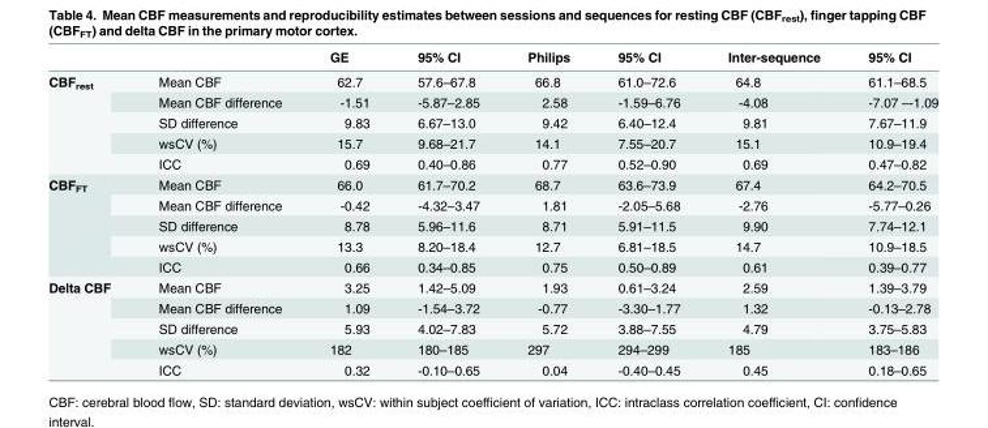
<table><thead><tr><td></td><td></td><td>GE</td><td>95% CI</td><td>Philips</td><td>95% CI</td><td>Inter-sequence</td><td>95% CI</td></tr></thead><tbody><tr><td rowspan="5">CBF<sub>rest</sub></td><td>Mean CBF</td><td>62.7</td><td>57.6–67.8</td><td>66.8</td><td>61.0–72.6</td><td>64.8</td><td>61.1–68.5</td></tr><tr><td>Mean CBF difference</td><td>-1.51</td><td>-5.87–2.85</td><td>2.58</td><td>-1.59–6.76</td><td>-4.08</td><td>-7.07 –-1.09</td></tr><tr><td>SD difference</td><td>9.83</td><td>6.67–13.0</td><td>9.42</td><td>6.40–12.4</td><td>9.81</td><td>7.67–11.9</td></tr><tr><td>wsCV (%)</td><td>15.7</td><td>9.68–21.7</td><td>14.1</td><td>7.55–20.7</td><td>15.1</td><td>10.9–19.4</td></tr><tr><td>ICC</td><td>0.69</td><td>0.40–0.86</td><td>0.77</td><td>0.52–0.90</td><td>0.69</td><td>0.47–0.82</td></tr><tr><td rowspan="5">CBF<sub>FT</sub></td><td>Mean CBF</td><td>66.0</td><td>61.7–70.2</td><td>68.7</td><td>63.6–73.9</td><td>67.4</td><td>64.2–70.5</td></tr><tr><td>Mean CBF difference</td><td>-0.42</td><td>-4.32–3.47</td><td>1.81</td><td>-2.05–5.68</td><td>-2.76</td><td>-5.77–0.26</td></tr><tr><td>SD difference</td><td>8.78</td><td>5.96–11.6</td><td>8.71</td><td>5.91–11.5</td><td>9.90</td><td>7.74–12.1</td></tr><tr><td>wsCV (%)</td><td>13.3</td><td>8.20–18.4</td><td>12.7</td><td>6.81–18.5</td><td>14.7</td><td>10.9–18.5</td></tr><tr><td>ICC</td><td>0.66</td><td>0.34–0.85</td><td>0.75</td><td>0.50–0.89</td><td>0.61</td><td>0.39–0.77</td></tr><tr><td rowspan="5">Delta CBF</td><td>Mean CBF</td><td>3.25</td><td>1.42–5.09</td><td>1.93</td><td>0.61–3.24</td><td>2.59</td><td>1.39–3.79</td></tr><tr><td>Mean CBF difference</td><td>1.09</td><td>-1.54–3.72</td><td>-0.77</td><td>-3.30–1.77</td><td>1.32</td><td>-0.13–2.78</td></tr><tr><td>SD difference</td><td>5.93</td><td>4.02–7.83</td><td>5.72</td><td>3.88–7.55</td><td>4.79</td><td>3.75–5.83</td></tr><tr><td>wsCV (%)</td><td>182</td><td>180–185</td><td>297</td><td>294–299</td><td>185</td><td>183–186</td></tr><tr><td>ICC</td><td>0.32</td><td>-0.10–0.65</td><td>0.04</td><td>-0.40–0.45</td><td>0.45</td><td>0.18–0.65</td></tr></tbody></table>